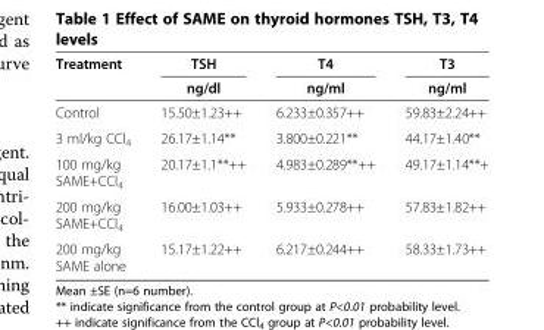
<table><thead><tr><td rowspan="2">Treatment</td><td rowspan="2">TSH ng/dl</td><td rowspan="2">T4 ng/ml</td><td rowspan="2">T3 ng/ml</td></tr><tr></tr></thead><tbody><tr><td>Control</td><td>15.50±1.23++</td><td>6.233±0.357++</td><td>59.83±2.24++</td></tr><tr><td>3 ml/kg CCl<sub>4</sub></td><td>26.17±1.14**</td><td>3.800±0.221**</td><td>44.17±1.40**</td></tr><tr><td>100 mg/kg SAME+CCl<sub>4</sub></td><td>20.17±1.1**++</td><td>4.983±0.289**++</td><td>49.17±1.14**+</td></tr><tr><td>200 mg/kg SAME+CCl<sub>4</sub></td><td>16.00±1.03++</td><td>5.933±0.278++</td><td>57.83±1.82++</td></tr><tr><td>200 mg/kg SAME alone</td><td>15.17±1.22++</td><td>6.217±0.244++</td><td>58.33±1.73++</td></tr></tbody></table>